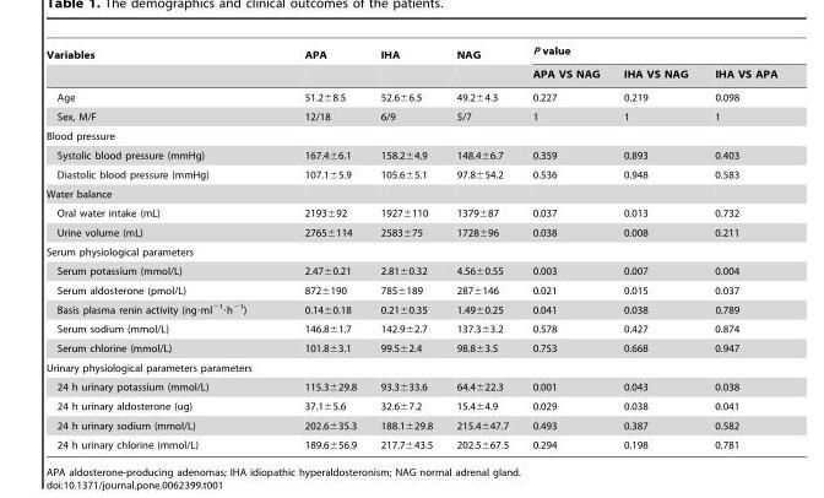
<table><thead><tr><td rowspan="2">Variables</td><td rowspan="2">APA</td><td rowspan="2">IHA</td><td rowspan="2">NAG</td><td colspan="3">P value</td></tr><tr><td>APA VS NAG</td><td>IHA VS NAG</td><td>IHA VS APA</td></tr></thead><tbody><tr><td>Age</td><td>51.2±8.5</td><td>52.6±6.5</td><td>49.2±4.3</td><td>0.227</td><td>0.219</td><td>0.098</td></tr><tr><td>Sex, M/F</td><td>12/18</td><td>6/9</td><td>5/7</td><td>1</td><td>1</td><td>1</td></tr><tr><td colspan="7">Blood pressure</td></tr><tr><td>Systolic blood pressure (mmHg)</td><td>167.4±6.1</td><td>158.2±4.9</td><td>148.4±6.7</td><td>0.359</td><td>0.893</td><td>0.403</td></tr><tr><td>Diastolic blood pressure (mmHg)</td><td>107.1±5.9</td><td>105.6±5.1</td><td>97.8±54.2</td><td>0.536</td><td>0.948</td><td>0.583</td></tr><tr><td colspan="7">Water balance</td></tr><tr><td>Oral water intake (mL)</td><td>2193±92</td><td>1927±110</td><td>1379±87</td><td>0.037</td><td>0.013</td><td>0.732</td></tr><tr><td>Urine volume (mL)</td><td>2765±114</td><td>2583±75</td><td>1728±96</td><td>0.038</td><td>0.008</td><td>0.211</td></tr><tr><td colspan="7">Serum physiological parameters</td></tr><tr><td>Serum potassium (mmol/L)</td><td>2.47±0.21</td><td>2.81±0.32</td><td>4.56±0.55</td><td>0.003</td><td>0.007</td><td>0.004</td></tr><tr><td>Serum aldosterone (pmol/L)</td><td>872±190</td><td>785±189</td><td>287±146</td><td>0.021</td><td>0.015</td><td>0.037</td></tr><tr><td>Basis plasma renin activity (ng·ml−1·h−1)</td><td>0.14±0.18</td><td>0.21±0.35</td><td>1.49±0.25</td><td>0.041</td><td>0.038</td><td>0.789</td></tr><tr><td>Serum sodium (mmol/L)</td><td>146.8±1.7</td><td>142.9±2.7</td><td>137.3±3.2</td><td>0.578</td><td>0.427</td><td>0.874</td></tr><tr><td>Serum chlorine (mmol/L)</td><td>101.8±3.1</td><td>99.5±2.4</td><td>98.8±3.5</td><td>0.753</td><td>0.668</td><td>0.947</td></tr><tr><td colspan="7">Urinary physiological parameters parameters</td></tr><tr><td>24 h urinary potassium (mmol/L)</td><td>115.3±29.8</td><td>93.3±33.6</td><td>64.4±22.3</td><td>0.001</td><td>0.043</td><td>0.038</td></tr><tr><td>24 h urinary aldosterone (ug)</td><td>37.1±5.6</td><td>32.6±7.2</td><td>15.4±4.9</td><td>0.029</td><td>0.038</td><td>0.041</td></tr><tr><td>24 h urinary sodium (mmol/L)</td><td>202.6±35.3</td><td>188.1±29.8</td><td>215.4±47.7</td><td>0.493</td><td>0.387</td><td>0.582</td></tr><tr><td>24 h urinary chlorine (mmol/L)</td><td>189.6±56.9</td><td>217.7±43.5</td><td>202.5±67.5</td><td>0.294</td><td>0.198</td><td>0.781</td></tr></tbody></table>